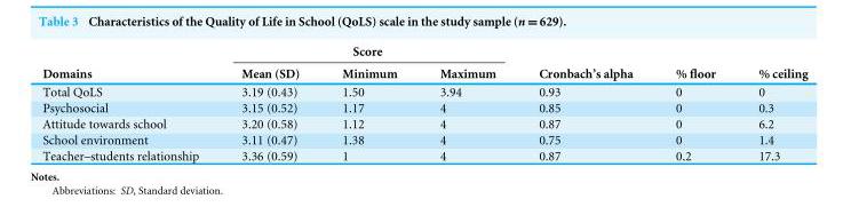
<table><thead><tr><td rowspan="2">Domains</td><td colspan="3">Score</td><td rowspan="2">Cronbach’s alpha</td><td rowspan="2">% floor</td><td rowspan="2">% ceiling</td></tr><tr><td>Mean (SD)</td><td>Minimum</td><td>Maximum</td></tr></thead><tbody><tr><td>Total QoLS</td><td>3.19 (0.43)</td><td>1.50</td><td>3.94</td><td>0.93</td><td>0</td><td>0</td></tr><tr><td>Psychosocial</td><td>3.15 (0.52)</td><td>1.17</td><td>4</td><td>0.85</td><td>0</td><td>0.3</td></tr><tr><td>Attitude towards school</td><td>3.20 (0.58)</td><td>1.12</td><td>4</td><td>0.87</td><td>0</td><td>6.2</td></tr><tr><td>School environment</td><td>3.11 (0.47)</td><td>1.38</td><td>4</td><td>0.75</td><td>0</td><td>1.4</td></tr><tr><td>Teacher–students relationship</td><td>3.36 (0.59)</td><td>1</td><td>4</td><td>0.87</td><td>0.2</td><td>17.3</td></tr></tbody></table>